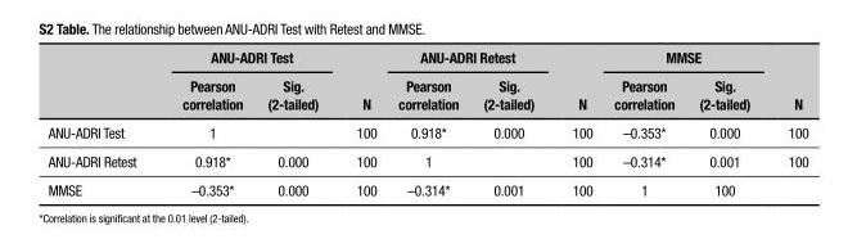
<table><thead><tr><td rowspan="2"></td><td colspan="2">ANU-ADRI Test</td><td rowspan="2">N</td><td colspan="2">ANU-ADRI Retest</td><td rowspan="2">N</td><td colspan="2">MMSE</td><td rowspan="2">N</td></tr><tr><td>Pearson correlation</td><td>Sig. (2-tailed)</td><td>Pearson correlation</td><td>Sig. (2-tailed)</td><td>Pearson correlation</td><td>Sig. (2-tailed)</td></tr></thead><tbody><tr><td>ANU-ADRI Test</td><td>1</td><td></td><td>100</td><td>0.918*</td><td>0.000</td><td>100</td><td>–0.353*</td><td>0.000</td><td>100</td></tr><tr><td>ANU-ADRI Retest</td><td>0.918*</td><td>0.000</td><td>100</td><td>1</td><td></td><td>100</td><td>–0.314*</td><td>0.001</td><td>100</td></tr><tr><td>MMSE</td><td>–0.353*</td><td>0.000</td><td>100</td><td>–0.314*</td><td>0.001</td><td>100</td><td>1</td><td>100</td><td></td></tr></tbody></table>